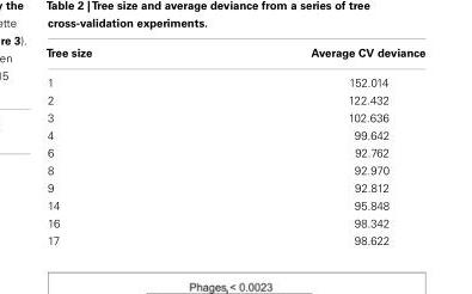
<table><thead><tr><td>Tree size</td><td>Average CV deviance</td></tr></thead><tbody><tr><td>1</td><td>152.014</td></tr><tr><td>2</td><td>122.432</td></tr><tr><td>3</td><td>102.636</td></tr><tr><td>4</td><td>99.642</td></tr><tr><td>6</td><td>92.762</td></tr><tr><td>8</td><td>92.970</td></tr><tr><td>9</td><td>92.812</td></tr><tr><td>14</td><td>95.848</td></tr><tr><td>16</td><td>98.342</td></tr><tr><td>17</td><td>98.622</td></tr></tbody></table>